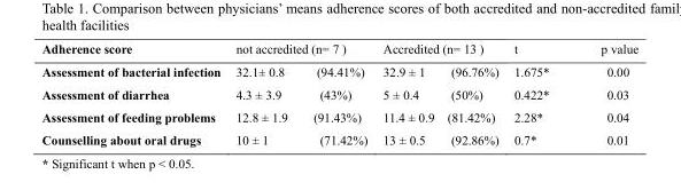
<table><thead><tr><td>Adherence score</td><td>not accredited (n= 7 )</td><td>Accredited (n= 13 )</td><td>t p value</td></tr></thead><tbody><tr><td>Assessment of bacterial infection</td><td>32.1± 0.8 (94.41%)</td><td>32.9 ± 1 (96.76%)</td><td>1.675* 0.00</td></tr><tr><td>Assessment of diarrhea</td><td>4.3 ± 3.9 (43%)</td><td>5 ± 0.4 (50%)</td><td>0.422* 0.03</td></tr><tr><td>Assessment of feeding problems</td><td>12.8 ± 1.9 (91.43%)</td><td>11.4 ± 0.9 (81.42%)</td><td>2.28* 0.04</td></tr><tr><td>Counselling about oral drugs</td><td>10 ± 1 (71.42%)</td><td>13 ± 0.5 (92.86%)</td><td>0.7* 0.01</td></tr></tbody></table>